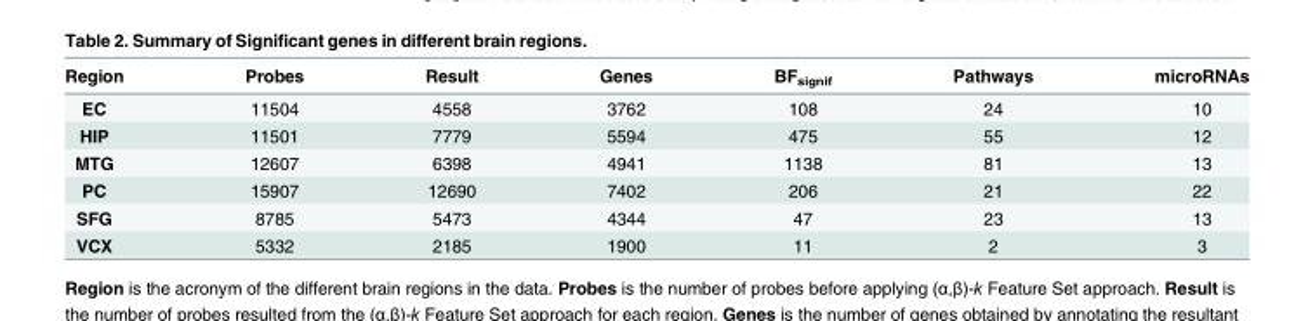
<table><thead><tr><td>Region</td><td>Probes</td><td>Result</td><td>Genes</td><td>BF<sub>signif</sub></td><td>Pathways</td><td>microRNAs</td></tr></thead><tbody><tr><td>EC</td><td>11504</td><td>4558</td><td>3762</td><td>108</td><td>24</td><td>10</td></tr><tr><td>HIP</td><td>11501</td><td>7779</td><td>5594</td><td>475</td><td>55</td><td>12</td></tr><tr><td>MTG</td><td>12607</td><td>6398</td><td>4941</td><td>1138</td><td>81</td><td>13</td></tr><tr><td>PC</td><td>15907</td><td>12690</td><td>7402</td><td>206</td><td>21</td><td>22</td></tr><tr><td>SFG</td><td>8785</td><td>5473</td><td>4344</td><td>47</td><td>23</td><td>13</td></tr><tr><td>VCX</td><td>5332</td><td>2185</td><td>1900</td><td>11</td><td>2</td><td>3</td></tr></tbody></table>